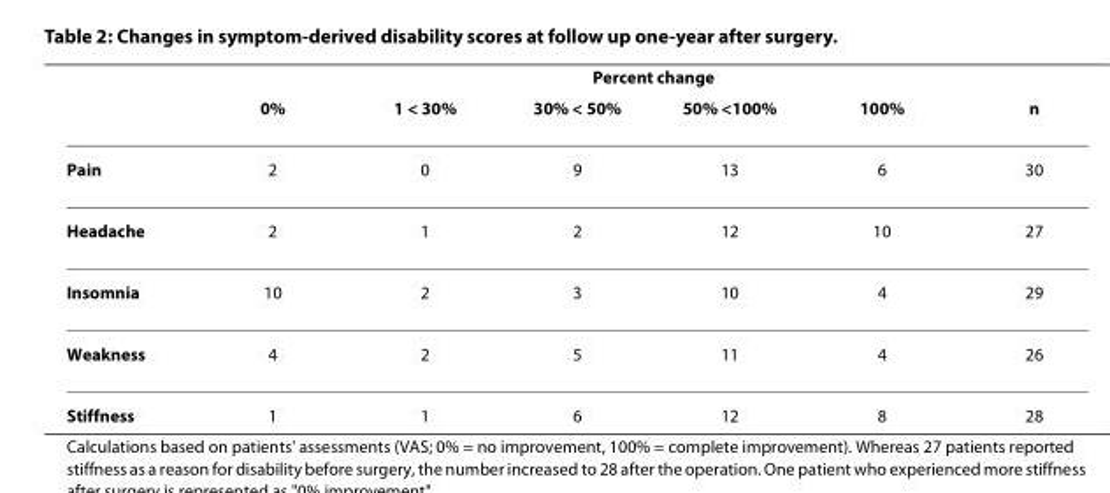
<table><thead><tr><td rowspan="2"></td><td colspan="6">Percent change</td></tr><tr><td>0%</td><td>1 &lt; 30%</td><td>30% &lt; 50%</td><td>50% &lt;100%</td><td>100%</td><td>n</td></tr></thead><tbody><tr><td>Pain</td><td>2</td><td>0</td><td>9</td><td>13</td><td>6</td><td>30</td></tr><tr><td>Headache</td><td>2</td><td>1</td><td>2</td><td>12</td><td>10</td><td>27</td></tr><tr><td>Insomnia</td><td>10</td><td>2</td><td>3</td><td>10</td><td>4</td><td>29</td></tr><tr><td>Weakness</td><td>4</td><td>2</td><td>5</td><td>11</td><td>4</td><td>26</td></tr><tr><td>Stiffness</td><td>1</td><td>1</td><td>6</td><td>12</td><td>8</td><td>28</td></tr></tbody></table>